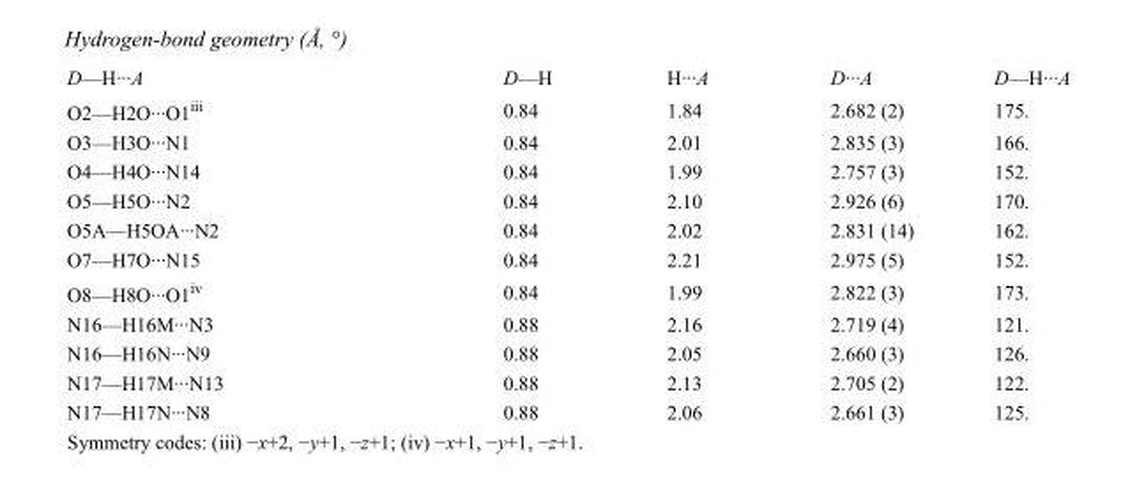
<table><tbody><tr><td>D—H···A</td><td>D—H</td><td>H···A</td><td>D···A</td><td>D—H···A</td></tr><tr><td>O2—H2O···O1<sup>iii</sup></td><td>0.84</td><td>1.84</td><td>2.682 (2)</td><td>175.</td></tr><tr><td>O3—H3O···N1</td><td>0.84</td><td>2.01</td><td>2.835 (3)</td><td>166.</td></tr><tr><td>O4—H4O···N14</td><td>0.84</td><td>1.99</td><td>2.757 (3)</td><td>152.</td></tr><tr><td>O5—H5O···N2</td><td>0.84</td><td>2.10</td><td>2.926 (6)</td><td>170.</td></tr><tr><td>O5A—H5OA···N2</td><td>0.84</td><td>2.02</td><td>2.831 (14)</td><td>162.</td></tr><tr><td>O7—H7O···N15</td><td>0.84</td><td>2.21</td><td>2.975 (5)</td><td>152.</td></tr><tr><td>O8—H8O···O1<sup>iv</sup></td><td>0.84</td><td>1.99</td><td>2.822 (3)</td><td>173.</td></tr><tr><td>N16—H16M···N3</td><td>0.88</td><td>2.16</td><td>2.719 (4)</td><td>121.</td></tr><tr><td>N16—H16N···N9</td><td>0.88</td><td>2.05</td><td>2.660 (3)</td><td>126.</td></tr><tr><td>N17—H17M···N13</td><td>0.88</td><td>2.13</td><td>2.705 (2)</td><td>122.</td></tr><tr><td>N17—H17N···N8</td><td>0.88</td><td>2.06</td><td>2.661 (3)</td><td>125.</td></tr></tbody></table>